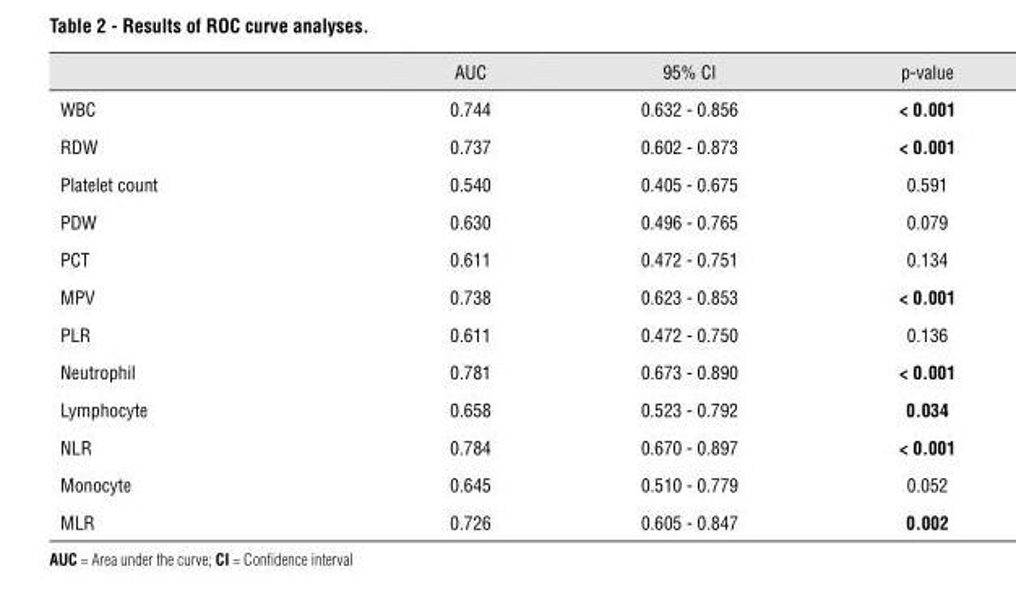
<table><thead><tr><td></td><td>AUC</td><td>95% CI</td><td>p-value</td></tr></thead><tbody><tr><td>WBC</td><td>0.744</td><td>0.632 - 0.856</td><td>&lt; 0.001</td></tr><tr><td>RDW</td><td>0.737</td><td>0.602 - 0.873</td><td>&lt; 0.001</td></tr><tr><td>Platelet count</td><td>0.540</td><td>0.405 - 0.675</td><td>0.591</td></tr><tr><td>PDW</td><td>0.630</td><td>0.496 - 0.765</td><td>0.079</td></tr><tr><td>PCT</td><td>0.611</td><td>0.472 - 0.751</td><td>0.134</td></tr><tr><td>MPV</td><td>0.738</td><td>0.623 - 0.853</td><td>&lt; 0.001</td></tr><tr><td>PLR</td><td>0.611</td><td>0.472 - 0.750</td><td>0.136</td></tr><tr><td>Neutrophil</td><td>0.781</td><td>0.673 - 0.890</td><td>&lt; 0.001</td></tr><tr><td>Lymphocyte</td><td>0.658</td><td>0.523 - 0.792</td><td>0.034</td></tr><tr><td>NLR</td><td>0.784</td><td>0.670 - 0.897</td><td>&lt; 0.001</td></tr><tr><td>Monocyte</td><td>0.645</td><td>0.510 - 0.779</td><td>0.052</td></tr><tr><td>MLR</td><td>0.726</td><td>0.605 - 0.847</td><td>0.002</td></tr></tbody></table>